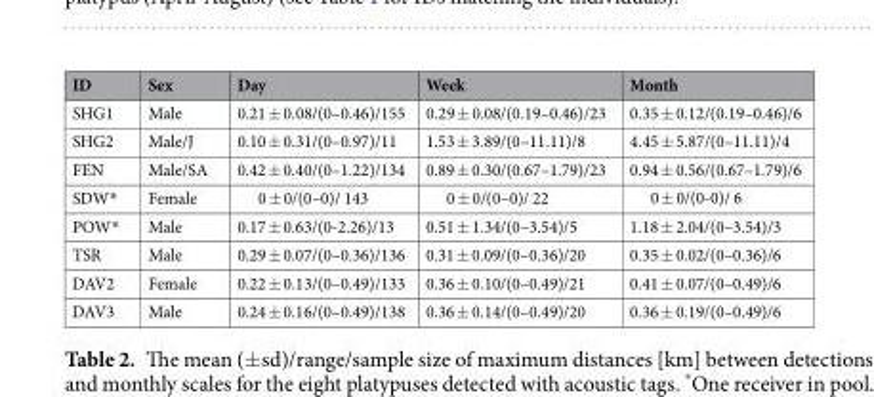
<table><thead><tr><td>ID</td><td>Sex</td><td>Day</td><td>Week</td><td>Month</td></tr></thead><tbody><tr><td>SHG1</td><td>Male</td><td>0.21 ± 0.08/(0–0.46)/155</td><td>0.29 ± 0.08/(0.19–0.46)/23</td><td>0.35 ± 0.12/(0.19–0.46)/6</td></tr><tr><td>SHG2</td><td>Male/J</td><td>0.10 ± 0.31/(0–0.97)/11</td><td>1.53 ± 3.89/(0–11.11)/8</td><td>4.45 ± 5.87/(0–11.11)/4</td></tr><tr><td>FEN</td><td>Male/SA</td><td>0.42 ± 0.40/(0–1.22)/134</td><td>0.89 ± 0.30/(0.67–1.79)/23</td><td>0.94 ± 0.56/(0.67–1.79)/6</td></tr><tr><td>SDW*</td><td>Female</td><td>0 ± 0/(0–0)/ 143</td><td>0 ± 0/(0–0)/ 22</td><td>0 ± 0/(0-0)/ 6</td></tr><tr><td>POW*</td><td>Male</td><td>0.17 ± 0.63/(0-2.26)/13</td><td>0.51 ± 1.34/(0–3.54)/5</td><td>1.18 ± 2.04/(0–3.54)/3</td></tr><tr><td>TSR</td><td>Male</td><td>0.29 ± 0.07/(0–0.36)/136</td><td>0.31 ± 0.09/(0–0.36)/20</td><td>0.35 ± 0.02/(0–0.36)/6</td></tr><tr><td>DAV2</td><td>Female</td><td>0.22 ± 0.13/(0–0.49)/133</td><td>0.36 ± 0.10/(0–0.49)/21</td><td>0.41 ± 0.07/(0–0.49)/6</td></tr><tr><td>DAV3</td><td>Male</td><td>0.24 ± 0.16/(0–0.49)/138</td><td>0.36 ± 0.14/(0–0.49)/20</td><td>0.36 ± 0.19/(0–0.49)/6</td></tr></tbody></table>